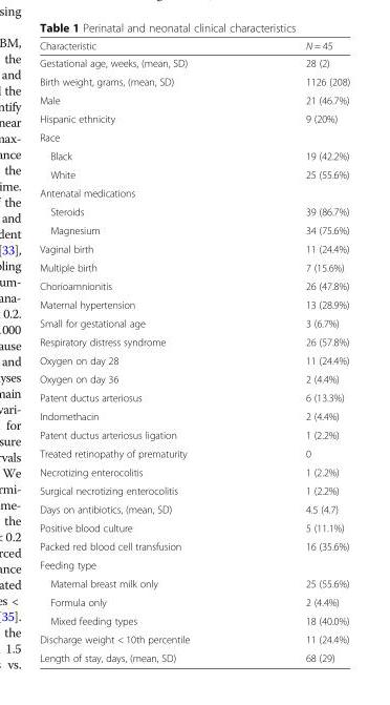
<table><thead><tr><td>Characteristic</td><td>N = 45</td></tr></thead><tbody><tr><td>Gestational age, weeks, (mean, SD)</td><td>28 (2)</td></tr><tr><td>Birth weight, grams, (mean, SD)</td><td>1126 (208)</td></tr><tr><td>Male</td><td>21 (46.7%)</td></tr><tr><td>Hispanic ethnicity</td><td>9 (20%)</td></tr><tr><td colspan="2">Race</td></tr><tr><td>Black</td><td>19 (42.2%)</td></tr><tr><td>White</td><td>25 (55.6%)</td></tr><tr><td colspan="2">Antenatal medications</td></tr><tr><td>Steroids</td><td>39 (86.7%)</td></tr><tr><td>Magnesium</td><td>34 (75.6%)</td></tr><tr><td>Vaginal birth</td><td>11 (24.4%)</td></tr><tr><td>Multiple birth</td><td>7 (15.6%)</td></tr><tr><td>Chorioamnionitis</td><td>26 (47.8%)</td></tr><tr><td>Maternal hypertension</td><td>13 (28.9%)</td></tr><tr><td>Small for gestational age</td><td>3 (6.7%)</td></tr><tr><td>Respiratory distress syndrome</td><td>26 (57.8%)</td></tr><tr><td>Oxygen on day 28</td><td>11 (24.4%)</td></tr><tr><td>Oxygen on day 36</td><td>2 (4.4%)</td></tr><tr><td>Patent ductus arteriosus</td><td>6 (13.3%)</td></tr><tr><td>Indomethacin</td><td>2 (4.4%)</td></tr><tr><td>Patent ductus arteriosus ligation</td><td>1 (2.2%)</td></tr><tr><td>Treated retinopathy of prematurity</td><td>0</td></tr><tr><td>Necrotizing enterocolitis</td><td>1 (2.2%)</td></tr><tr><td>Surgical necrotizing enterocolitis</td><td>1 (2.2%)</td></tr><tr><td>Days on antibiotics, (mean, SD)</td><td>4.5 (4.7)</td></tr><tr><td>Positive blood culture</td><td>5 (11.1%)</td></tr><tr><td>Packed red blood cell transfusion</td><td>16 (35.6%)</td></tr><tr><td colspan="2">Feeding type</td></tr><tr><td>Maternal breast milk only</td><td>25 (55.6%)</td></tr><tr><td>Formula only</td><td>2 (4.4%)</td></tr><tr><td>Mixed feeding types</td><td>18 (40.0%)</td></tr><tr><td>Discharge weight &lt; 10th percentile</td><td>11 (24.4%)</td></tr><tr><td>Length of stay, days, (mean, SD)</td><td>68 (29)</td></tr></tbody></table>